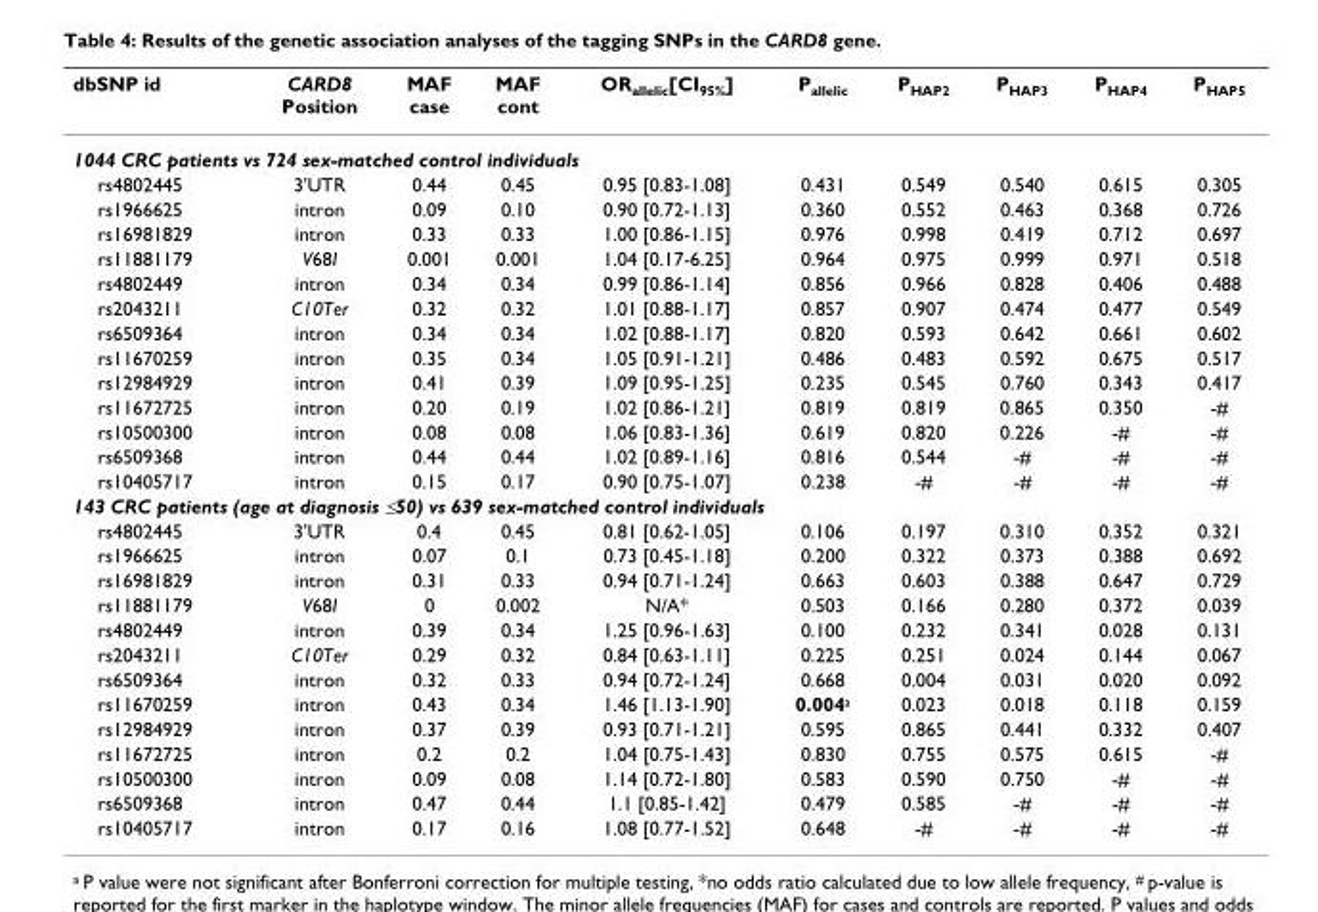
<table><thead><tr><td>dbSNP id</td><td>CARD8 Position</td><td>MAF case</td><td>MAF cont</td><td>ORallelic[CI95%]</td><td>P<sub>allelic</sub></td><td>P<sub>HAP2</sub></td><td>P<sub>HAP3</sub></td><td>P<sub>HAP4</sub></td><td>P<sub>HAP5</sub></td></tr></thead><tbody><tr><td colspan="10">1044 CRC patients vs 724 sex-matched control individuals</td></tr><tr><td>rs4802445</td><td>3&#x27;UTR</td><td>0.44</td><td>0.45</td><td>0.95 [0.83-1.08]</td><td>0.431</td><td>0.549</td><td>0.540</td><td>0.615</td><td>0.305</td></tr><tr><td>rs1966625</td><td>intron</td><td>0.09</td><td>0.10</td><td>0.90 [0.72-1.13]</td><td>0.360</td><td>0.552</td><td>0.463</td><td>0.368</td><td>0.726</td></tr><tr><td>rs16981829</td><td>intron</td><td>0.33</td><td>0.33</td><td>1.00 [0.86-1.15]</td><td>0.976</td><td>0.998</td><td>0.419</td><td>0.712</td><td>0.697</td></tr><tr><td>rs11881179</td><td>V68I</td><td>0.001</td><td>0.001</td><td>1.04 [0.17-6.25]</td><td>0.964</td><td>0.975</td><td>0.999</td><td>0.971</td><td>0.518</td></tr><tr><td>rs4802449</td><td>intron</td><td>0.34</td><td>0.34</td><td>0.99 [0.86-1.14]</td><td>0.856</td><td>0.966</td><td>0.828</td><td>0.406</td><td>0.488</td></tr><tr><td>rs2043211</td><td>C10Ter</td><td>0.32</td><td>0.32</td><td>1.01 [0.88-1.17]</td><td>0.857</td><td>0.907</td><td>0.474</td><td>0.477</td><td>0.549</td></tr><tr><td>rs6509364</td><td>intron</td><td>0.34</td><td>0.34</td><td>1.02 [0.88-1.17]</td><td>0.820</td><td>0.593</td><td>0.642</td><td>0.661</td><td>0.602</td></tr><tr><td>rs11670259</td><td>intron</td><td>0.35</td><td>0.34</td><td>1.05 [0.91-1.21]</td><td>0.486</td><td>0.483</td><td>0.592</td><td>0.675</td><td>0.517</td></tr><tr><td>rs12984929</td><td>intron</td><td>0.41</td><td>0.39</td><td>1.09 [0.95-1.25]</td><td>0.235</td><td>0.545</td><td>0.760</td><td>0.343</td><td>0.417</td></tr><tr><td>rs11672725</td><td>intron</td><td>0.20</td><td>0.19</td><td>1.02 [0.86-1.21]</td><td>0.819</td><td>0.819</td><td>0.865</td><td>0.350</td><td>-#</td></tr><tr><td>rs10500300</td><td>intron</td><td>0.08</td><td>0.08</td><td>1.06 [0.83-1.36]</td><td>0.619</td><td>0.820</td><td>0.226</td><td>-#</td><td>-#</td></tr><tr><td>rs6509368</td><td>intron</td><td>0.44</td><td>0.44</td><td>1.02 [0.89-1.16]</td><td>0.816</td><td>0.544</td><td>-#</td><td>-#</td><td>-#</td></tr><tr><td>rs10405717</td><td>intron</td><td>0.15</td><td>0.17</td><td>0.90 [0.75-1.07]</td><td>0.238</td><td>-#</td><td>-#</td><td>-#</td><td>-#</td></tr><tr><td colspan="10">143 CRC patients (age at diagnosis ≤50) vs 639 sex-matched control individuals</td></tr><tr><td>rs4802445</td><td>3&#x27;UTR</td><td>0.4</td><td>0.45</td><td>0.81 [0.62-1.05]</td><td>0.106</td><td>0.197</td><td>0.310</td><td>0.352</td><td>0.321</td></tr><tr><td>rs1966625</td><td>intron</td><td>0.07</td><td>0.1</td><td>0.73 [0.45-1.18]</td><td>0.200</td><td>0.322</td><td>0.373</td><td>0.388</td><td>0.692</td></tr><tr><td>rs16981829</td><td>intron</td><td>0.31</td><td>0.33</td><td>0.94 [0.71-1.24]</td><td>0.663</td><td>0.603</td><td>0.388</td><td>0.647</td><td>0.729</td></tr><tr><td>rs11881179</td><td>V68I</td><td>0</td><td>0.002</td><td>N/A*</td><td>0.503</td><td>0.166</td><td>0.280</td><td>0.372</td><td>0.039</td></tr><tr><td>rs4802449</td><td>intron</td><td>0.39</td><td>0.34</td><td>1.25 [0.96-1.63]</td><td>0.100</td><td>0.232</td><td>0.341</td><td>0.028</td><td>0.131</td></tr><tr><td>rs2043211</td><td>C10Ter</td><td>0.29</td><td>0.32</td><td>0.84 [0.63-1.11]</td><td>0.225</td><td>0.251</td><td>0.024</td><td>0.144</td><td>0.067</td></tr><tr><td>rs6509364</td><td>intron</td><td>0.32</td><td>0.33</td><td>0.94 [0.72-1.24]</td><td>0.668</td><td>0.004</td><td>0.031</td><td>0.020</td><td>0.092</td></tr><tr><td>rs11670259</td><td>intron</td><td>0.43</td><td>0.34</td><td>1.46 [1.13-1.90]</td><td>0.004<sup>a</sup></td><td>0.023</td><td>0.018</td><td>0.118</td><td>0.159</td></tr><tr><td>rs12984929</td><td>intron</td><td>0.37</td><td>0.39</td><td>0.93 [0.71-1.21]</td><td>0.595</td><td>0.865</td><td>0.441</td><td>0.332</td><td>0.407</td></tr><tr><td>rs11672725</td><td>intron</td><td>0.2</td><td>0.2</td><td>1.04 [0.75-1.43]</td><td>0.830</td><td>0.755</td><td>0.575</td><td>0.615</td><td>-#</td></tr><tr><td>rs10500300</td><td>intron</td><td>0.09</td><td>0.08</td><td>1.14 [0.72-1.80]</td><td>0.583</td><td>0.590</td><td>0.750</td><td>-#</td><td>-#</td></tr><tr><td>rs6509368</td><td>intron</td><td>0.47</td><td>0.44</td><td>1.1 [0.85-1.42]</td><td>0.479</td><td>0.585</td><td>-#</td><td>-#</td><td>-#</td></tr><tr><td>rs10405717</td><td>intron</td><td>0.17</td><td>0.16</td><td>1.08 [0.77-1.52]</td><td>0.648</td><td>-#</td><td>-#</td><td>-#</td><td>-#</td></tr></tbody></table>